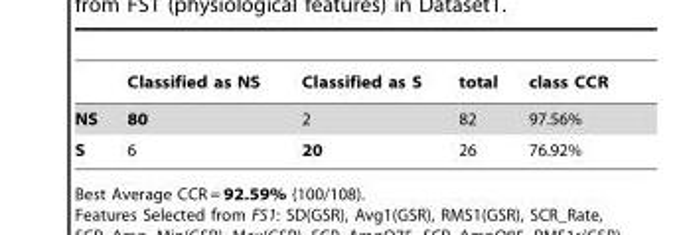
<table><thead><tr><td></td><td>Classified as NS</td><td>Classified as S</td><td>total</td><td>class CCR</td></tr></thead><tbody><tr><td>NS</td><td>80</td><td>2</td><td>82</td><td>97.56%</td></tr><tr><td>S</td><td>6</td><td>20</td><td>26</td><td>76.92%</td></tr></tbody></table>